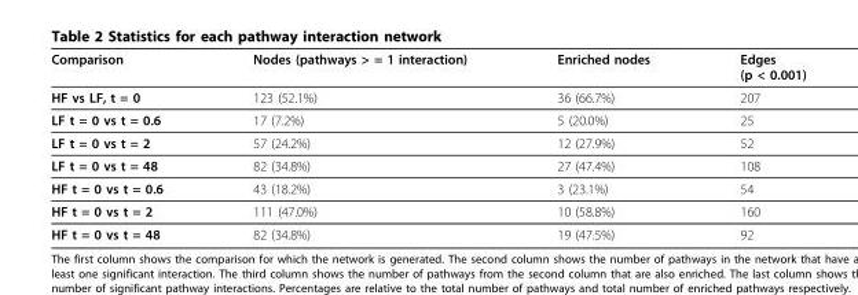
<table><thead><tr><td>Comparison</td><td>Nodes (pathways &gt; = 1 interaction)</td><td>Enriched nodes</td><td>Edges (p &lt; 0.001)</td></tr></thead><tbody><tr><td>HF vs LF, t = 0</td><td>123 (52.1%)</td><td>36 (66.7%)</td><td>207</td></tr><tr><td>LF t = 0 vs t = 0.6</td><td>17 (7.2%)</td><td>5 (20.0%)</td><td>25</td></tr><tr><td>LF t = 0 vs t = 2</td><td>57 (24.2%)</td><td>12 (27.9%)</td><td>52</td></tr><tr><td>LF t = 0 vs t = 48</td><td>82 (34.8%)</td><td>27 (47.4%)</td><td>108</td></tr><tr><td>HF t = 0 vs t = 0.6</td><td>43 (18.2%)</td><td>3 (23.1%)</td><td>54</td></tr><tr><td>HF t = 0 vs t = 2</td><td>111 (47.0%)</td><td>10 (58.8%)</td><td>160</td></tr><tr><td>HF t = 0 vs t = 48</td><td>82 (34.8%)</td><td>19 (47.5%)</td><td>92</td></tr></tbody></table>